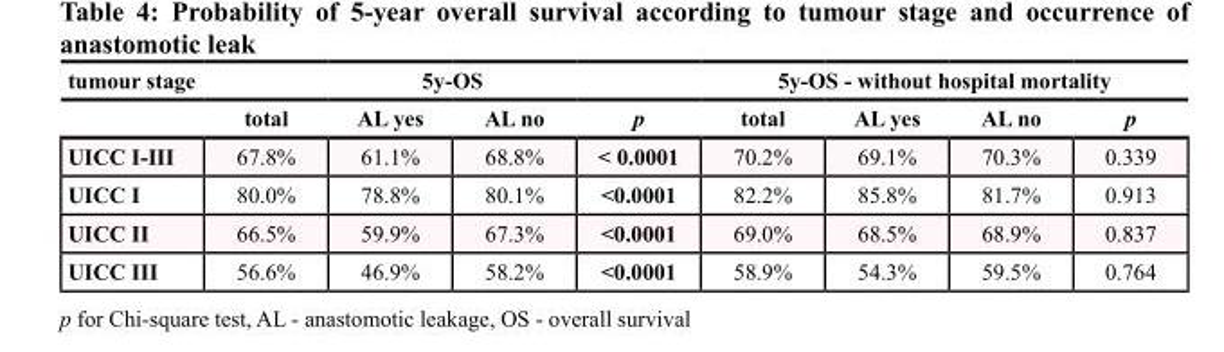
<table><thead><tr><td rowspan="2">tumour stage</td><td colspan="4">5y-OS</td><td colspan="4">5y-OS - without hospital mortality</td></tr><tr><td>total</td><td>AL yes</td><td>AL no</td><td>p</td><td>total</td><td>AL yes</td><td>AL no</td><td>p</td></tr></thead><tbody><tr><td>UICC I-III</td><td>67.8%</td><td>61.1%</td><td>68.8%</td><td>&lt; 0.0001</td><td>70.2%</td><td>69.1%</td><td>70.3%</td><td>0.339</td></tr><tr><td>UICC I</td><td>80.0%</td><td>78.8%</td><td>80.1%</td><td>&lt;0.0001</td><td>82.2%</td><td>85.8%</td><td>81.7%</td><td>0.913</td></tr><tr><td>UICC II</td><td>66.5%</td><td>59.9%</td><td>67.3%</td><td>&lt;0.0001</td><td>69.0%</td><td>68.5%</td><td>68.9%</td><td>0.837</td></tr><tr><td>UICC III</td><td>56.6%</td><td>46.9%</td><td>58.2%</td><td>&lt;0.0001</td><td>58.9%</td><td>54.3%</td><td>59.5%</td><td>0.764</td></tr></tbody></table>